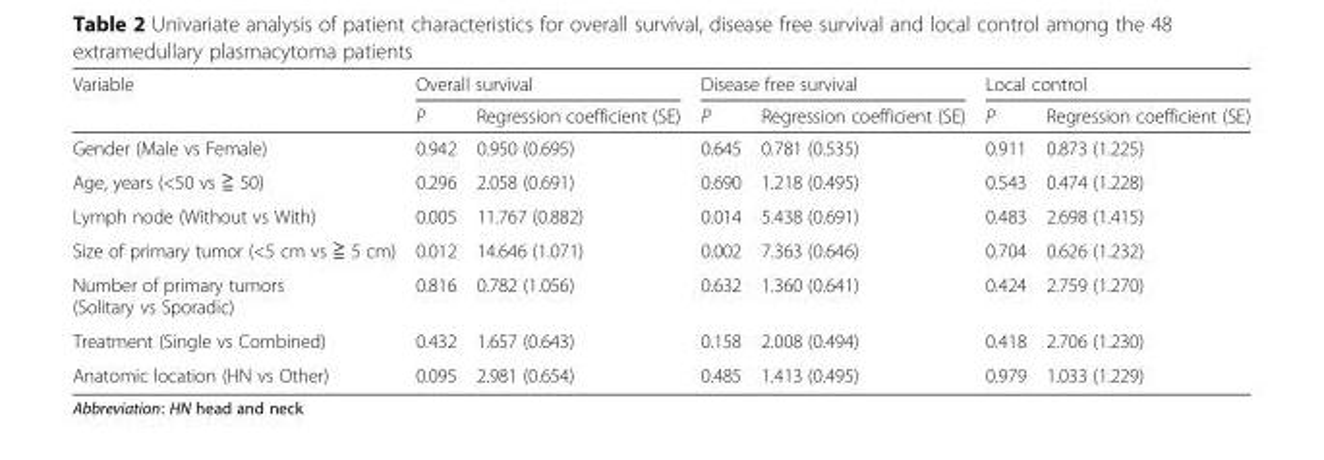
<table><thead><tr><td rowspan="2">Variable</td><td colspan="2">Overall survival</td><td colspan="2">Disease free survival</td><td colspan="2">Local control</td></tr><tr><td>P</td><td>Regression coefficient (SE)</td><td>P</td><td>Regression coefficient (SE)</td><td>P</td><td>Regression coefficient (SE)</td></tr></thead><tbody><tr><td>Gender (Male vs Female)</td><td>0.942</td><td>0.950 (0.695)</td><td>0.645</td><td>0.781 (0.535)</td><td>0.911</td><td>0.873 (1.225)</td></tr><tr><td>Age, years (&lt;50 vs ≧ 50)</td><td>0.296</td><td>2.058 (0.691)</td><td>0.690</td><td>1.218 (0.495)</td><td>0.543</td><td>0.474 (1.228)</td></tr><tr><td>Lymph node (Without vs With)</td><td>0.005</td><td>11.767 (0.882)</td><td>0.014</td><td>5.438 (0.691)</td><td>0.483</td><td>2.698 (1.415)</td></tr><tr><td>Size of primary tumor (&lt;5 cm vs ≧ 5 cm)</td><td>0.012</td><td>14.646 (1.071)</td><td>0.002</td><td>7.363 (0.646)</td><td>0.704</td><td>0.626 (1.232)</td></tr><tr><td>Number of primary tumors (Solitary vs Sporadic)</td><td>0.816</td><td>0.782 (1.056)</td><td>0.632</td><td>1.360 (0.641)</td><td>0.424</td><td>2.759 (1.270)</td></tr><tr><td>Treatment (Single vs Combined)</td><td>0.432</td><td>1.657 (0.643)</td><td>0.158</td><td>2.008 (0.494)</td><td>0.418</td><td>2.706 (1.230)</td></tr><tr><td>Anatomic location (HN vs Other)</td><td>0.095</td><td>2.981 (0.654)</td><td>0.485</td><td>1.413 (0.495)</td><td>0.979</td><td>1.033 (1.229)</td></tr></tbody></table>